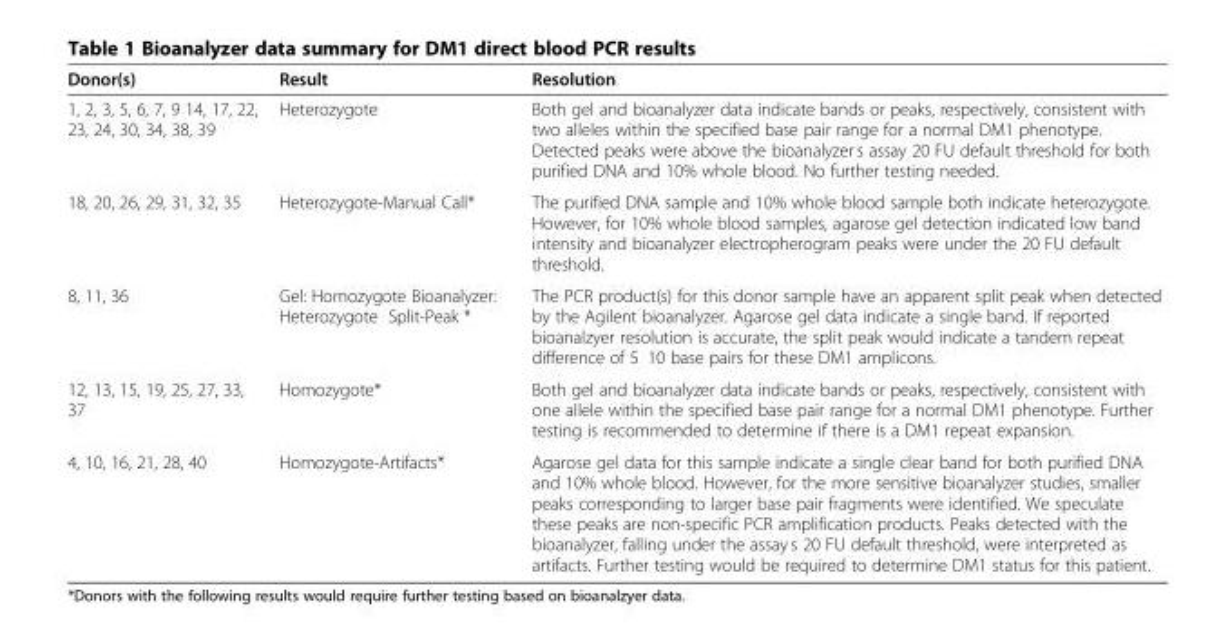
<table><thead><tr><td>Donor(s)</td><td>Result</td><td>Resolution</td></tr></thead><tbody><tr><td>1, 2, 3, 5, 6, 7, 9 14, 17, 22, 23, 24, 30, 34, 38, 39</td><td>Heterozygote</td><td>Both gel and bioanalyzer data indicate bands or peaks, respectively, consistent with two alleles within the specified base pair range for a normal DM1 phenotype. Detected peaks were above the bioanalyzer’ s assay 20 FU default threshold for both purified DNA and 10% whole blood. No further testing needed.</td></tr><tr><td>18, 20, 26, 29, 31, 32, 35</td><td>Heterozygote-Manual Call*</td><td>The purified DNA sample and 10% whole blood sample both indicate heterozygote. However, for 10% whole blood samples, agarose gel detection indicated low band intensity and bioanalyzer electropherogram peaks were under the 20 FU default threshold.</td></tr><tr><td>8, 11, 36</td><td>Gel: Homozygote Bioanalyzer: Heterozygote “ Split-Peak” *</td><td>The PCR product(s) for this donor sample have an apparent split peak when detected by the Agilent bioanalyzer. Agarose gel data indicate a single band. If reported bioanalzyer resolution is accurate, the split peak would indicate a tandem repeat difference of 5– 10 base pairs for these DM1 amplicons.</td></tr><tr><td>12, 13, 15, 19, 25, 27, 33, 37</td><td>Homozygote*</td><td>Both gel and bioanalyzer data indicate bands or peaks, respectively, consistent with one allele within the specified base pair range for a normal DM1 phenotype. Further testing is recommended to determine if there is a DM1 repeat expansion.</td></tr><tr><td>4, 10, 16, 21, 28, 40</td><td>Homozygote-Artifacts*</td><td>Agarose gel data for this sample indicate a single clear band for both purified DNA and 10% whole blood. However, for the more sensitive bioanalyzer studies, smaller peaks corresponding to larger base pair fragments were identified. We speculate these peaks are non-specific PCR amplification products. Peaks detected with the bioanalyzer, falling under the assay’ s 20 FU default threshold, were interpreted as artifacts. Further testing would be required to determine DM1 status for this patient.</td></tr></tbody></table>